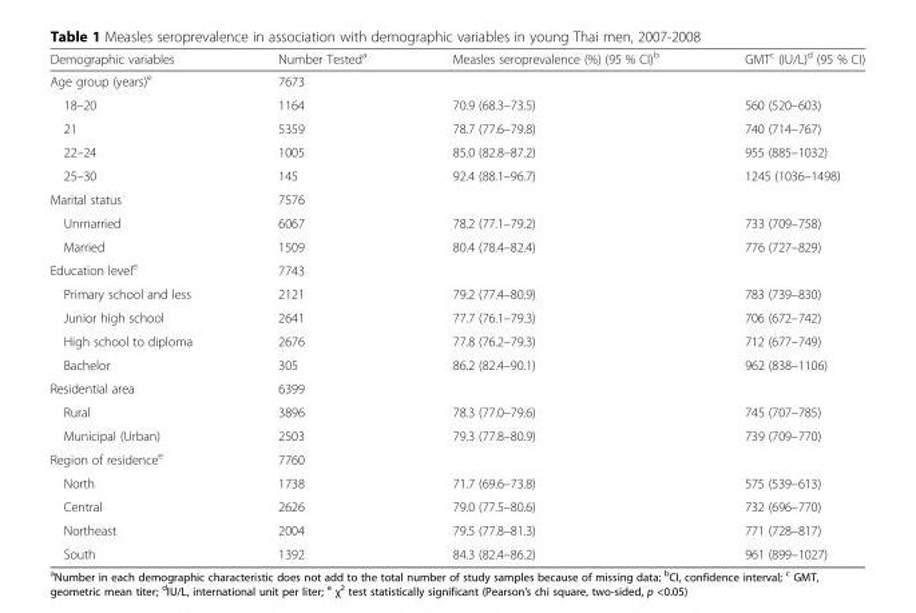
<table><thead><tr><td>Demographic variables</td><td>Number Tested<sup>a</sup></td><td>Measles seroprevalence (%) (95 % CI)<sup>b</sup></td><td>GMT<sup>c</sup> (IU/L)<sup>d</sup> (95 % CI)</td></tr></thead><tbody><tr><td>Age group (years)<sup>e</sup></td><td>7673</td><td></td><td></td></tr><tr><td>18–20</td><td>1164</td><td>70.9 (68.3–73.5)</td><td>560 (520–603)</td></tr><tr><td>21</td><td>5359</td><td>78.7 (77.6–79.8)</td><td>740 (714–767)</td></tr><tr><td>22–24</td><td>1005</td><td>85.0 (82.8–87.2)</td><td>955 (885–1032)</td></tr><tr><td>25–30</td><td>145</td><td>92.4 (88.1–96.7)</td><td>1245 (1036–1498)</td></tr><tr><td>Marital status</td><td>7576</td><td></td><td></td></tr><tr><td>Unmarried</td><td>6067</td><td>78.2 (77.1–79.2)</td><td>733 (709–758)</td></tr><tr><td>Married</td><td>1509</td><td>80.4 (78.4–82.4)</td><td>776 (727–829)</td></tr><tr><td>Education level<sup>e</sup></td><td>7743</td><td></td><td></td></tr><tr><td>Primary school and less</td><td>2121</td><td>79.2 (77.4–80.9)</td><td>783 (739–830)</td></tr><tr><td>Junior high school</td><td>2641</td><td>77.7 (76.1–79.3)</td><td>706 (672–742)</td></tr><tr><td>High school to diploma</td><td>2676</td><td>77.8 (76.2–79.3)</td><td>712 (677–749)</td></tr><tr><td>Bachelor</td><td>305</td><td>86.2 (82.4–90.1)</td><td>962 (838–1106)</td></tr><tr><td>Residential area</td><td>6399</td><td></td><td></td></tr><tr><td>Rural</td><td>3896</td><td>78.3 (77.0–79.6)</td><td>745 (707–785)</td></tr><tr><td>Municipal (Urban)</td><td>2503</td><td>79.3 (77.8–80.9)</td><td>739 (709–770)</td></tr><tr><td>Region of residence<sup>e</sup></td><td>7760</td><td></td><td></td></tr><tr><td>North</td><td>1738</td><td>71.7 (69.6–73.8)</td><td>575 (539–613)</td></tr><tr><td>Central</td><td>2626</td><td>79.0 (77.5–80.6)</td><td>732 (696–770)</td></tr><tr><td>Northeast</td><td>2004</td><td>79.5 (77.8–81.3)</td><td>771 (728–817)</td></tr><tr><td>South</td><td>1392</td><td>84.3 (82.4–86.2)</td><td>961 (899–1027)</td></tr></tbody></table>